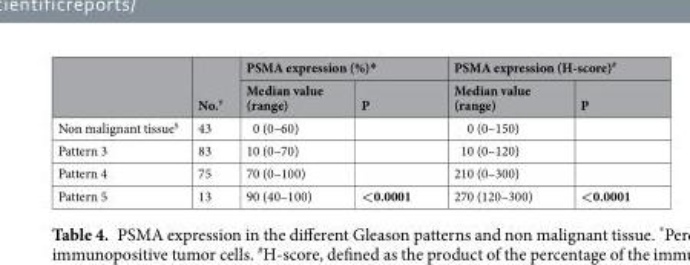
<table><thead><tr><td rowspan="2"></td><td rowspan="2">No.<sup>†</sup></td><td colspan="2">PSMA expression (%)*</td><td colspan="2">PSMA expression (H-score)<sup>#</sup></td></tr><tr><td>Median value (range)</td><td>P</td><td>Median value (range)</td><td>P</td></tr></thead><tbody><tr><td>Non malignant tissue<sup>§</sup></td><td>43</td><td>0 (0–60)</td><td></td><td>0 (0–150)</td><td></td></tr><tr><td>Pattern 3</td><td>83</td><td>10 (0–70)</td><td></td><td>10 (0–120)</td><td></td></tr><tr><td>Pattern 4</td><td>75</td><td>70 (0–100)</td><td></td><td>210 (0–300)</td><td></td></tr><tr><td>Pattern 5</td><td>13</td><td>90 (40–100)</td><td>&lt;0.0001</td><td>270 (120–300)</td><td>&lt;0.0001</td></tr></tbody></table>